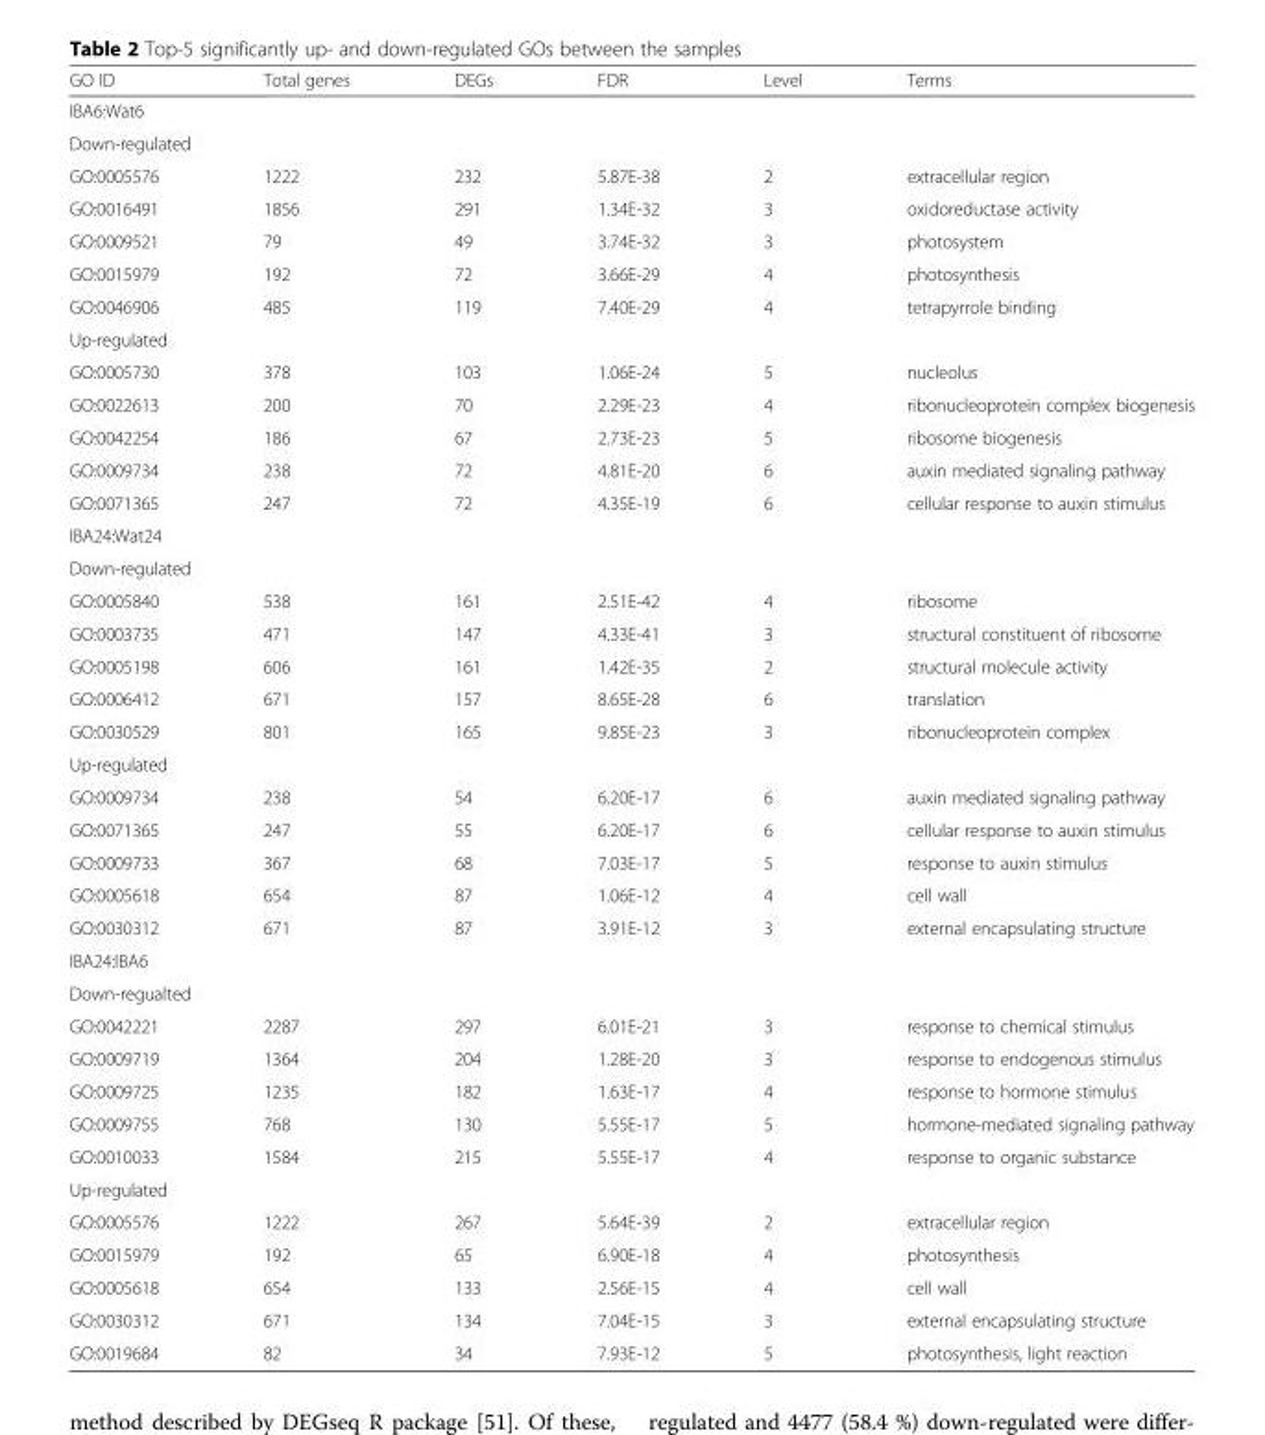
<table><thead><tr><td>GO ID</td><td>Total genes</td><td>DEGs</td><td>FDR</td><td>Level</td><td>Terms</td></tr></thead><tbody><tr><td colspan="6">IBA6:Wat6</td></tr><tr><td colspan="6">Down-regulated</td></tr><tr><td>GO:0005576</td><td>1222</td><td>232</td><td>5.87E-38</td><td>2</td><td>extracellular region</td></tr><tr><td>GO:0016491</td><td>1856</td><td>291</td><td>1.34E-32</td><td>3</td><td>oxidoreductase activity</td></tr><tr><td>GO:0009521</td><td>79</td><td>49</td><td>3.74E-32</td><td>3</td><td>photosystem</td></tr><tr><td>GO:0015979</td><td>192</td><td>72</td><td>3.66E-29</td><td>4</td><td>photosynthesis</td></tr><tr><td>GO:0046906</td><td>485</td><td>119</td><td>7.40E-29</td><td>4</td><td>tetrapyrrole binding</td></tr><tr><td colspan="6">Up-regulated</td></tr><tr><td>GO:0005730</td><td>378</td><td>103</td><td>1.06E-24</td><td>5</td><td>nucleolus</td></tr><tr><td>GO:0022613</td><td>200</td><td>70</td><td>2.29E-23</td><td>4</td><td>ribonucleoprotein complex biogenesis</td></tr><tr><td>GO:0042254</td><td>186</td><td>67</td><td>2.73E-23</td><td>5</td><td>ribosome biogenesis</td></tr><tr><td>GO:0009734</td><td>238</td><td>72</td><td>4.81E-20</td><td>6</td><td>auxin mediated signaling pathway</td></tr><tr><td>GO:0071365</td><td>247</td><td>72</td><td>4.35E-19</td><td>6</td><td>cellular response to auxin stimulus</td></tr><tr><td colspan="6">IBA24:Wat24</td></tr><tr><td colspan="6">Down-regulated</td></tr><tr><td>GO:0005840</td><td>538</td><td>161</td><td>2.51E-42</td><td>4</td><td>ribosome</td></tr><tr><td>GO:0003735</td><td>471</td><td>147</td><td>4.33E-41</td><td>3</td><td>structural constituent of ribosome</td></tr><tr><td>GO:0005198</td><td>606</td><td>161</td><td>1.42E-35</td><td>2</td><td>structural molecule activity</td></tr><tr><td>GO:0006412</td><td>671</td><td>157</td><td>8.65E-28</td><td>6</td><td>translation</td></tr><tr><td>GO:0030529</td><td>801</td><td>165</td><td>9.85E-23</td><td>3</td><td>ribonucleoprotein complex</td></tr><tr><td colspan="6">Up-regulated</td></tr><tr><td>GO:0009734</td><td>238</td><td>54</td><td>6.20E-17</td><td>6</td><td>auxin mediated signaling pathway</td></tr><tr><td>GO:0071365</td><td>247</td><td>55</td><td>6.20E-17</td><td>6</td><td>cellular response to auxin stimulus</td></tr><tr><td>GO:0009733</td><td>367</td><td>68</td><td>7.03E-17</td><td>5</td><td>response to auxin stimulus</td></tr><tr><td>GO:0005618</td><td>654</td><td>87</td><td>1.06E-12</td><td>4</td><td>cell wall</td></tr><tr><td>GO:0030312</td><td>671</td><td>87</td><td>3.91E-12</td><td>3</td><td>external encapsulating structure</td></tr><tr><td colspan="6">IBA24:IBA6</td></tr><tr><td colspan="6">Down-regualted</td></tr><tr><td>GO:0042221</td><td>2287</td><td>297</td><td>6.01E-21</td><td>3</td><td>response to chemical stimulus</td></tr><tr><td>GO:0009719</td><td>1364</td><td>204</td><td>1.28E-20</td><td>3</td><td>response to endogenous stimulus</td></tr><tr><td>GO:0009725</td><td>1235</td><td>182</td><td>1.63E-17</td><td>4</td><td>response to hormone stimulus</td></tr><tr><td>GO:0009755</td><td>768</td><td>130</td><td>5.55E-17</td><td>5</td><td>hormone-mediated signaling pathway</td></tr><tr><td>GO:0010033</td><td>1584</td><td>215</td><td>5.55E-17</td><td>4</td><td>response to organic substance</td></tr><tr><td colspan="6">Up-regulated</td></tr><tr><td>GO:0005576</td><td>1222</td><td>267</td><td>5.64E-39</td><td>2</td><td>extracellular region</td></tr><tr><td>GO:0015979</td><td>192</td><td>65</td><td>6.90E-18</td><td>4</td><td>photosynthesis</td></tr><tr><td>GO:0005618</td><td>654</td><td>133</td><td>2.56E-15</td><td>4</td><td>cell wall</td></tr><tr><td>GO:0030312</td><td>671</td><td>134</td><td>7.04E-15</td><td>3</td><td>external encapsulating structure</td></tr><tr><td>GO:0019684</td><td>82</td><td>34</td><td>7.93E-12</td><td>5</td><td>photosynthesis, light reaction</td></tr></tbody></table>